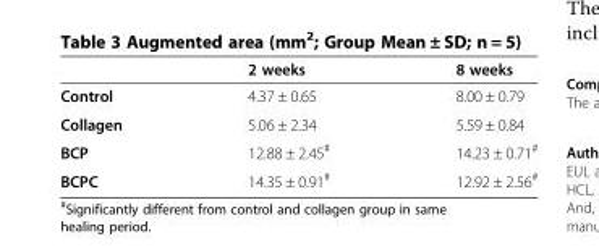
<table><thead><tr><td></td><td>2 weeks</td><td>8 weeks</td></tr></thead><tbody><tr><td>Control</td><td>4.37 ± 0.65</td><td>8.00 ± 0.79</td></tr><tr><td>Collagen</td><td>5.06 ± 2.34</td><td>5.59 ± 0.84</td></tr><tr><td>BCP</td><td>12.88 ± 2.45<sup>#</sup></td><td>14.23 ± 0.71<sup>#</sup></td></tr><tr><td>BCPC</td><td>14.35 ± 0.91<sup>#</sup></td><td>12.92 ± 2.56<sup>#</sup></td></tr></tbody></table>